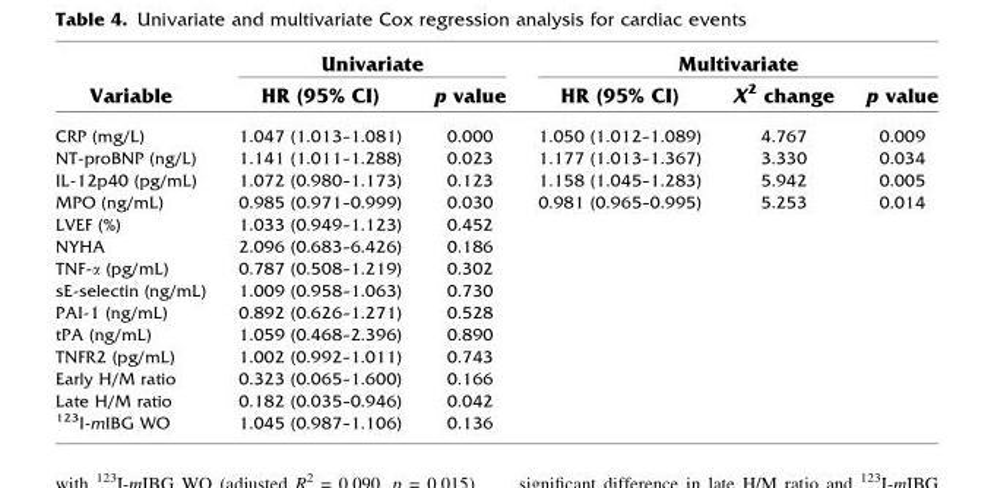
<table><thead><tr><td rowspan="2">Variable</td><td colspan="2">Univariate</td><td colspan="3">Multivariate</td></tr><tr><td>HR (95% CI)</td><td>p value</td><td>HR (95% CI)</td><td>X<sup>2</sup> change</td><td>p value</td></tr></thead><tbody><tr><td>CRP (mg/L)</td><td>1.047 (1.013–1.081)</td><td>0.000</td><td>1.050 (1.012–1.089)</td><td>4.767</td><td>0.009</td></tr><tr><td>NT-proBNP (ng/L)</td><td>1.141 (1.011–1.288)</td><td>0.023</td><td>1.177 (1.013–1.367)</td><td>3.330</td><td>0.034</td></tr><tr><td>IL-12p40 (pg/mL)</td><td>1.072 (0.980–1.173)</td><td>0.123</td><td>1.158 (1.045–1.283)</td><td>5.942</td><td>0.005</td></tr><tr><td>MPO (ng/mL)</td><td>0.985 (0.971–0.999)</td><td>0.030</td><td>0.981 (0.965–0.995)</td><td>5.253</td><td>0.014</td></tr><tr><td>LVEF (%)</td><td>1.033 (0.949–1.123)</td><td>0.452</td><td></td><td></td><td></td></tr><tr><td>NYHA</td><td>2.096 (0.683–6.426)</td><td>0.186</td><td></td><td></td><td></td></tr><tr><td>TNF-α (pg/mL)</td><td>0.787 (0.508–1.219)</td><td>0.302</td><td></td><td></td><td></td></tr><tr><td>sE-selectin (ng/mL)</td><td>1.009 (0.958–1.063)</td><td>0.730</td><td></td><td></td><td></td></tr><tr><td>PAI-1 (ng/mL)</td><td>0.892 (0.626–1.271)</td><td>0.528</td><td></td><td></td><td></td></tr><tr><td>tPA (ng/mL)</td><td>1.059 (0.468–2.396)</td><td>0.890</td><td></td><td></td><td></td></tr><tr><td>TNFR2 (pg/mL)</td><td>1.002 (0.992–1.011)</td><td>0.743</td><td></td><td></td><td></td></tr><tr><td>Early H/M ratio</td><td>0.323 (0.065–1.600)</td><td>0.166</td><td></td><td></td><td></td></tr><tr><td>Late H/M ratio</td><td>0.182 (0.035–0.946)</td><td>0.042</td><td></td><td></td><td></td></tr><tr><td><sup>123</sup>I-mIBG WO</td><td>1.045 (0.987–1.106)</td><td>0.136</td><td></td><td></td><td></td></tr></tbody></table>